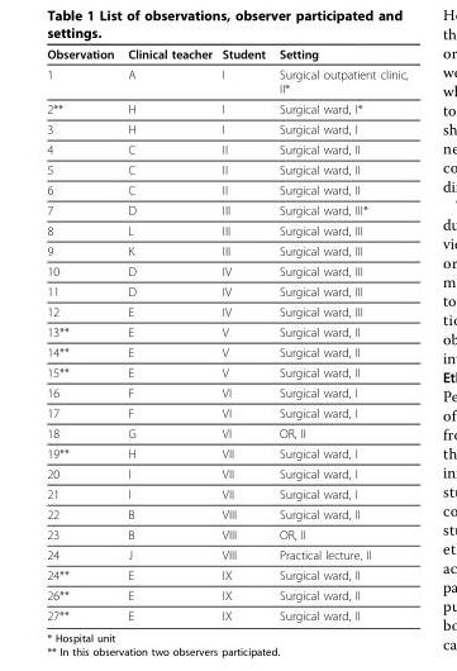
<table><thead><tr><td>Observation</td><td>Clinical teacher</td><td>Student</td><td>Setting</td></tr></thead><tbody><tr><td>1</td><td>A</td><td>I</td><td>Surgical outpatient clinic, II*</td></tr><tr><td>2**</td><td>H</td><td>I</td><td>Surgical ward, I*</td></tr><tr><td>3</td><td>H</td><td>I</td><td>Surgical ward, I</td></tr><tr><td>4</td><td>C</td><td>II</td><td>Surgical ward, II</td></tr><tr><td>5</td><td>C</td><td>II</td><td>Surgical ward, II</td></tr><tr><td>6</td><td>C</td><td>II</td><td>Surgical ward, II</td></tr><tr><td>7</td><td>D</td><td>III</td><td>Surgical ward, III*</td></tr><tr><td>8</td><td>L</td><td>III</td><td>Surgical ward, III</td></tr><tr><td>9</td><td>K</td><td>III</td><td>Surgical ward, III</td></tr><tr><td>10</td><td>D</td><td>IV</td><td>Surgical ward, III</td></tr><tr><td>11</td><td>D</td><td>IV</td><td>Surgical ward, III</td></tr><tr><td>12</td><td>E</td><td>IV</td><td>Surgical ward, III</td></tr><tr><td>13**</td><td>E</td><td>V</td><td>Surgical ward, II</td></tr><tr><td>14**</td><td>E</td><td>V</td><td>Surgical ward, II</td></tr><tr><td>15**</td><td>E</td><td>V</td><td>Surgical ward, II</td></tr><tr><td>16</td><td>F</td><td>VI</td><td>Surgical ward, I</td></tr><tr><td>17</td><td>F</td><td>VI</td><td>Surgical ward, I</td></tr><tr><td>18</td><td>G</td><td>VI</td><td>OR, II</td></tr><tr><td>19**</td><td>H</td><td>VII</td><td>Surgical ward, I</td></tr><tr><td>20</td><td>I</td><td>VII</td><td>Surgical ward, I</td></tr><tr><td>21</td><td>I</td><td>VII</td><td>Surgical ward, I</td></tr><tr><td>22</td><td>B</td><td>VIII</td><td>Surgical ward, II</td></tr><tr><td>23</td><td>B</td><td>VIII</td><td>OR, II</td></tr><tr><td>24</td><td>J</td><td>VIII</td><td>Practical lecture, II</td></tr><tr><td>24**</td><td>E</td><td>IX</td><td>Surgical ward, II</td></tr><tr><td>26**</td><td>E</td><td>IX</td><td>Surgical ward, II</td></tr><tr><td>27**</td><td>E</td><td>IX</td><td>Surgical ward, II</td></tr></tbody></table>